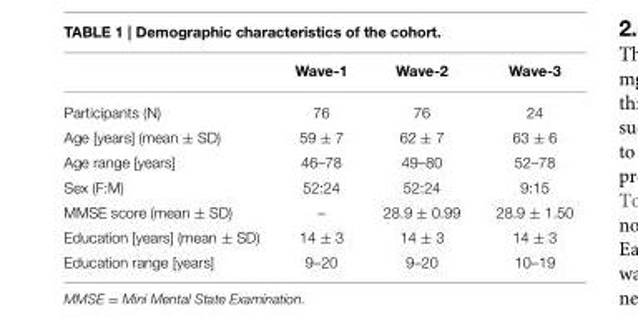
<table><thead><tr><td></td><td>Wave-1</td><td>Wave-2</td><td>Wave-3</td></tr></thead><tbody><tr><td>Participants (N)</td><td>76</td><td>76</td><td>24</td></tr><tr><td>Age [years] (mean ± SD)</td><td>59 ± 7</td><td>62 ± 7</td><td>63 ± 6</td></tr><tr><td>Age range [years]</td><td>46–78</td><td>49–80</td><td>52–78</td></tr><tr><td>Sex (F:M)</td><td>52:24</td><td>52:24</td><td>9:15</td></tr><tr><td>MMSE score (mean ± SD)</td><td>–</td><td>28.9 ± 0.99</td><td>28.9 ± 1.50</td></tr><tr><td>Education [years] (mean ± SD)</td><td>14 ± 3</td><td>14 ± 3</td><td>14 ± 3</td></tr><tr><td>Education range [years]</td><td>9–20</td><td>9–20</td><td>10–19</td></tr></tbody></table>